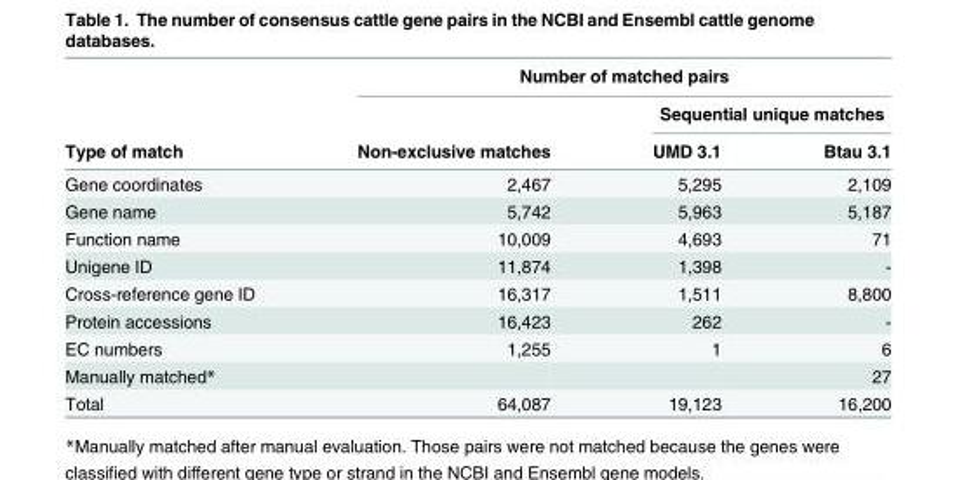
<table><thead><tr><td rowspan="3">Type of match</td><td colspan="3">Number of matched pairs</td></tr><tr><td rowspan="2">Non-exclusive matches</td><td colspan="2">Sequential unique matches</td></tr><tr><td>UMD 3.1</td><td>Btau 3.1</td></tr></thead><tbody><tr><td>Gene coordinates</td><td>2,467</td><td>5,295</td><td>2,109</td></tr><tr><td>Gene name</td><td>5,742</td><td>5,963</td><td>5,187</td></tr><tr><td>Function name</td><td>10,009</td><td>4,693</td><td>71</td></tr><tr><td>Unigene ID</td><td>11,874</td><td>1,398</td><td>-</td></tr><tr><td>Cross-reference gene ID</td><td>16,317</td><td>1,511</td><td>8,800</td></tr><tr><td>Protein accessions</td><td>16,423</td><td>262</td><td>-</td></tr><tr><td>EC numbers</td><td>1,255</td><td>1</td><td>6</td></tr><tr><td>Manually matched*</td><td></td><td></td><td>27</td></tr><tr><td>Total</td><td>64,087</td><td>19,123</td><td>16,200</td></tr></tbody></table>